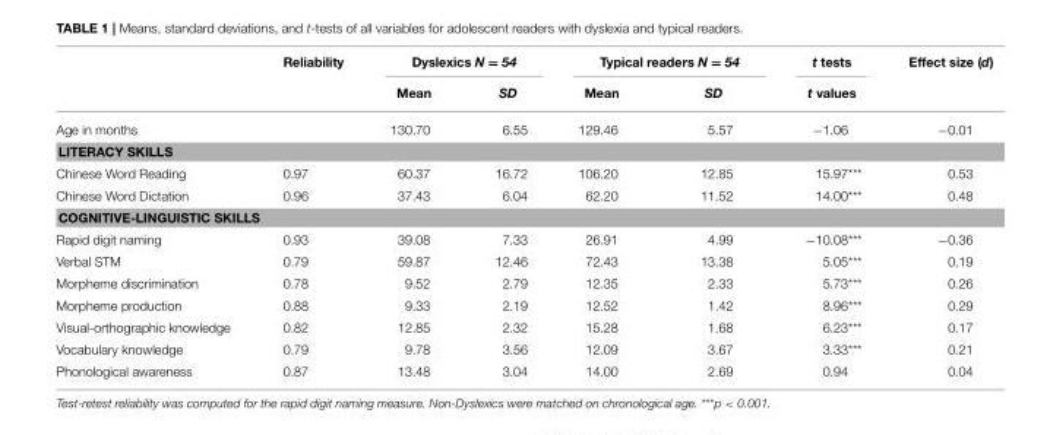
<table><thead><tr><td rowspan="2"></td><td rowspan="2">Reliability</td><td colspan="2">Dyslexics N = 54</td><td colspan="2">Typical readers N = 54</td><td rowspan="2">t tests t values</td><td rowspan="2">Effect size (d)</td></tr><tr><td>Mean</td><td>SD</td><td>Mean</td><td>SD</td></tr></thead><tbody><tr><td>Age in months</td><td></td><td>130.70</td><td>6.55</td><td>129.46</td><td>5.57</td><td>−1.06</td><td>−0.01</td></tr><tr><td colspan="8">LITERACY SKILLS</td></tr><tr><td>Chinese Word Reading</td><td>0.97</td><td>60.37</td><td>16.72</td><td>106.20</td><td>12.85</td><td>15.97***</td><td>0.53</td></tr><tr><td>Chinese Word Dictation</td><td>0.96</td><td>37.43</td><td>6.04</td><td>62.20</td><td>11.52</td><td>14.00***</td><td>0.48</td></tr><tr><td colspan="8">COGNITIVE-LINGUISTIC SKILLS</td></tr><tr><td>Rapid digit naming</td><td>0.93</td><td>39.08</td><td>7.33</td><td>26.91</td><td>4.99</td><td>−10.08***</td><td>−0.36</td></tr><tr><td>Verbal STM</td><td>0.79</td><td>59.87</td><td>12.46</td><td>72.43</td><td>13.38</td><td>5.05***</td><td>0.19</td></tr><tr><td>Morpheme discrimination</td><td>0.78</td><td>9.52</td><td>2.79</td><td>12.35</td><td>2.33</td><td>5.73***</td><td>0.26</td></tr><tr><td>Morpheme production</td><td>0.88</td><td>9.33</td><td>2.19</td><td>12.52</td><td>1.42</td><td>8.96***</td><td>0.29</td></tr><tr><td>Visual-orthographic knowledge</td><td>0.82</td><td>12.85</td><td>2.32</td><td>15.28</td><td>1.68</td><td>6.23***</td><td>0.17</td></tr><tr><td>Vocabulary knowledge</td><td>0.79</td><td>9.78</td><td>3.56</td><td>12.09</td><td>3.67</td><td>3.33***</td><td>0.21</td></tr><tr><td>Phonological awareness</td><td>0.87</td><td>13.48</td><td>3.04</td><td>14.00</td><td>2.69</td><td>0.94</td><td>0.04</td></tr></tbody></table>